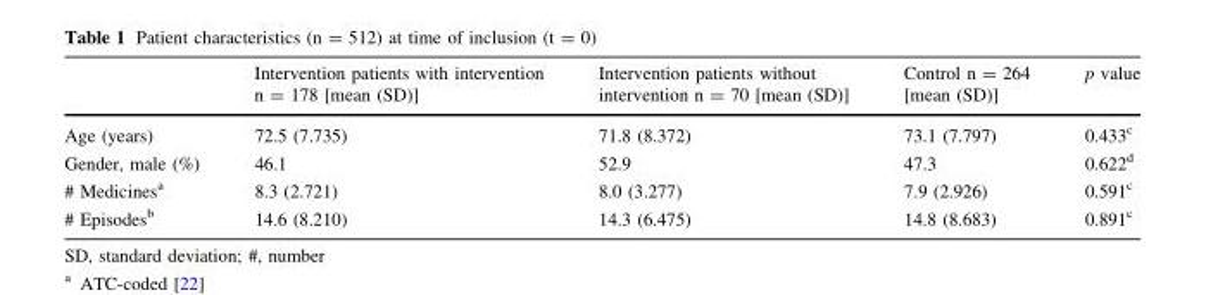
<table><thead><tr><td></td><td>Intervention patients with intervention n = 178 [mean (SD)]</td><td>Intervention patients without intervention n = 70 [mean (SD)]</td><td>Control n = 264 [mean (SD)]</td><td>p value</td></tr></thead><tbody><tr><td>Age (years)</td><td>72.5 (7.735)</td><td>71.8 (8.372)</td><td>73.1 (7.797)</td><td>0.433<sup>c</sup></td></tr><tr><td>Gender, male (%)</td><td>46.1</td><td>52.9</td><td>47.3</td><td>0.622<sup>d</sup></td></tr><tr><td># Medicines<sup>a</sup></td><td>8.3 (2.721)</td><td>8.0 (3.277)</td><td>7.9 (2.926)</td><td>0.591<sup>c</sup></td></tr><tr><td># Episodes<sup>b</sup></td><td>14.6 (8.210)</td><td>14.3 (6.475)</td><td>14.8 (8.683)</td><td>0.891<sup>c</sup></td></tr></tbody></table>